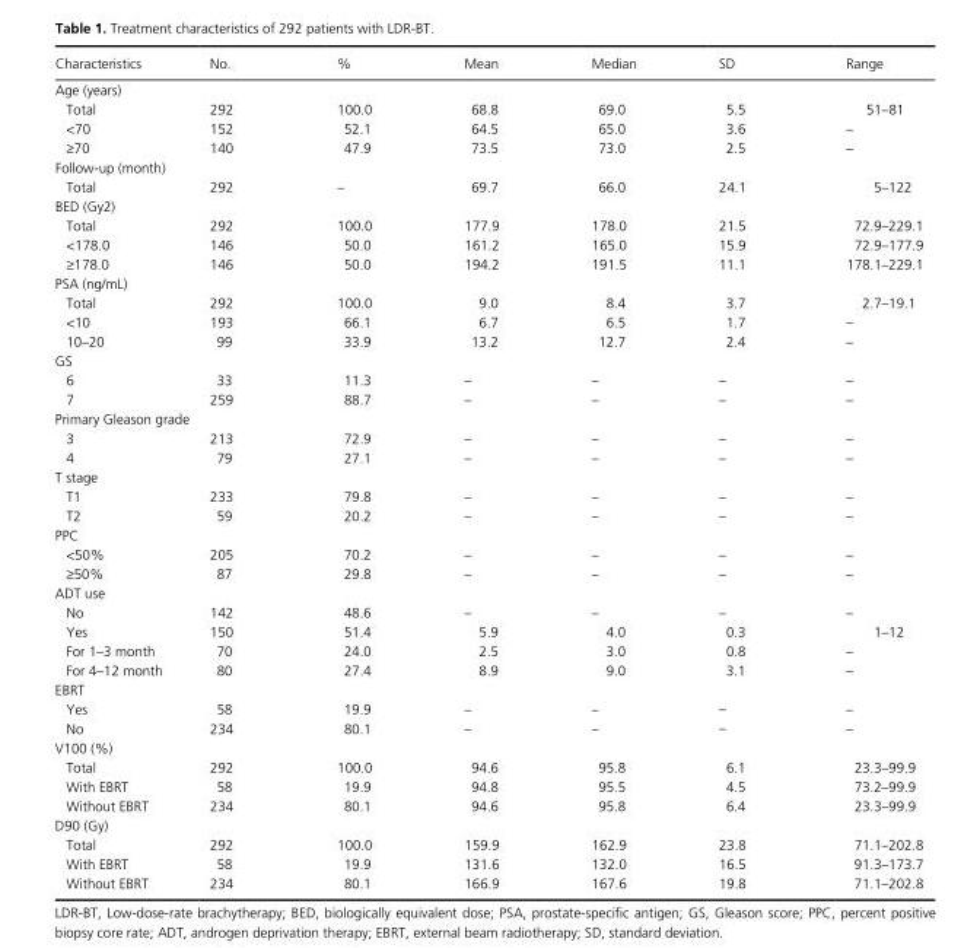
<table><thead><tr><td>Characteristics</td><td>No.</td><td>%</td><td>Mean</td><td>Median</td><td>SD</td><td>Range</td></tr></thead><tbody><tr><td colspan="7">Age (years)</td></tr><tr><td>Total</td><td>292</td><td>100.0</td><td>68.8</td><td>69.0</td><td>5.5</td><td>51–81</td></tr><tr><td>&lt;70</td><td>152</td><td>52.1</td><td>64.5</td><td>65.0</td><td>3.6</td><td>–</td></tr><tr><td>≥70</td><td>140</td><td>47.9</td><td>73.5</td><td>73.0</td><td>2.5</td><td>–</td></tr><tr><td colspan="7">Follow- up (month)</td></tr><tr><td>Total</td><td>292</td><td>–</td><td>69.7</td><td>66.0</td><td>24.1</td><td>5–122</td></tr><tr><td colspan="7">BED (Gy2)</td></tr><tr><td>Total</td><td>292</td><td>100.0</td><td>177.9</td><td>178.0</td><td>21.5</td><td>72.9–229.1</td></tr><tr><td>&lt;178.0</td><td>146</td><td>50.0</td><td>161.2</td><td>165.0</td><td>15.9</td><td>72.9–177.9</td></tr><tr><td>≥178.0</td><td>146</td><td>50.0</td><td>194.2</td><td>191.5</td><td>11.1</td><td>178.1–229.1</td></tr><tr><td colspan="7">PSA (ng/mL)</td></tr><tr><td>Total</td><td>292</td><td>100.0</td><td>9.0</td><td>8.4</td><td>3.7</td><td>2.7–19.1</td></tr><tr><td>&lt;10</td><td>193</td><td>66.1</td><td>6.7</td><td>6.5</td><td>1.7</td><td>–</td></tr><tr><td>10–20</td><td>99</td><td>33.9</td><td>13.2</td><td>12.7</td><td>2.4</td><td>–</td></tr><tr><td colspan="7">GS</td></tr><tr><td>6</td><td>33</td><td>11.3</td><td>–</td><td>–</td><td>–</td><td>–</td></tr><tr><td>7</td><td>259</td><td>88.7</td><td>–</td><td>–</td><td>–</td><td>–</td></tr><tr><td colspan="7">Primary Gleason grade</td></tr><tr><td>3</td><td>213</td><td>72.9</td><td>–</td><td>–</td><td>–</td><td>–</td></tr><tr><td>4</td><td>79</td><td>27.1</td><td>–</td><td>–</td><td>–</td><td>–</td></tr><tr><td colspan="7">T stage</td></tr><tr><td>T1</td><td>233</td><td>79.8</td><td>–</td><td>–</td><td>–</td><td>–</td></tr><tr><td>T2</td><td>59</td><td>20.2</td><td>–</td><td>–</td><td>–</td><td>–</td></tr><tr><td colspan="7">PPC</td></tr><tr><td>&lt;50%</td><td>205</td><td>70.2</td><td>–</td><td>–</td><td>–</td><td>–</td></tr><tr><td>≥50%</td><td>87</td><td>29.8</td><td>–</td><td>–</td><td>–</td><td>–</td></tr><tr><td colspan="7">ADT use</td></tr><tr><td>No</td><td>142</td><td>48.6</td><td>–</td><td>–</td><td>–</td><td>–</td></tr><tr><td>Yes</td><td>150</td><td>51.4</td><td>5.9</td><td>4.0</td><td>0.3</td><td>1–12</td></tr><tr><td>For 1–3 month</td><td>70</td><td>24.0</td><td>2.5</td><td>3.0</td><td>0.8</td><td>–</td></tr><tr><td>For 4–12 month</td><td>80</td><td>27.4</td><td>8.9</td><td>9.0</td><td>3.1</td><td>–</td></tr><tr><td colspan="7">EBRT</td></tr><tr><td>Yes</td><td>58</td><td>19.9</td><td>–</td><td>–</td><td>–</td><td>–</td></tr><tr><td>No</td><td>234</td><td>80.1</td><td>–</td><td>–</td><td>–</td><td>–</td></tr><tr><td colspan="7">V100 (%)</td></tr><tr><td>Total</td><td>292</td><td>100.0</td><td>94.6</td><td>95.8</td><td>6.1</td><td>23.3–99.9</td></tr><tr><td>With EBRT</td><td>58</td><td>19.9</td><td>94.8</td><td>95.5</td><td>4.5</td><td>73.2–99.9</td></tr><tr><td>Without EBRT</td><td>234</td><td>80.1</td><td>94.6</td><td>95.8</td><td>6.4</td><td>23.3–99.9</td></tr><tr><td colspan="7">D90 (Gy)</td></tr><tr><td>Total</td><td>292</td><td>100.0</td><td>159.9</td><td>162.9</td><td>23.8</td><td>71.1–202.8</td></tr><tr><td>With EBRT</td><td>58</td><td>19.9</td><td>131.6</td><td>132.0</td><td>16.5</td><td>91.3–173.7</td></tr><tr><td>Without EBRT</td><td>234</td><td>80.1</td><td>166.9</td><td>167.6</td><td>19.8</td><td>71.1–202.8</td></tr></tbody></table>